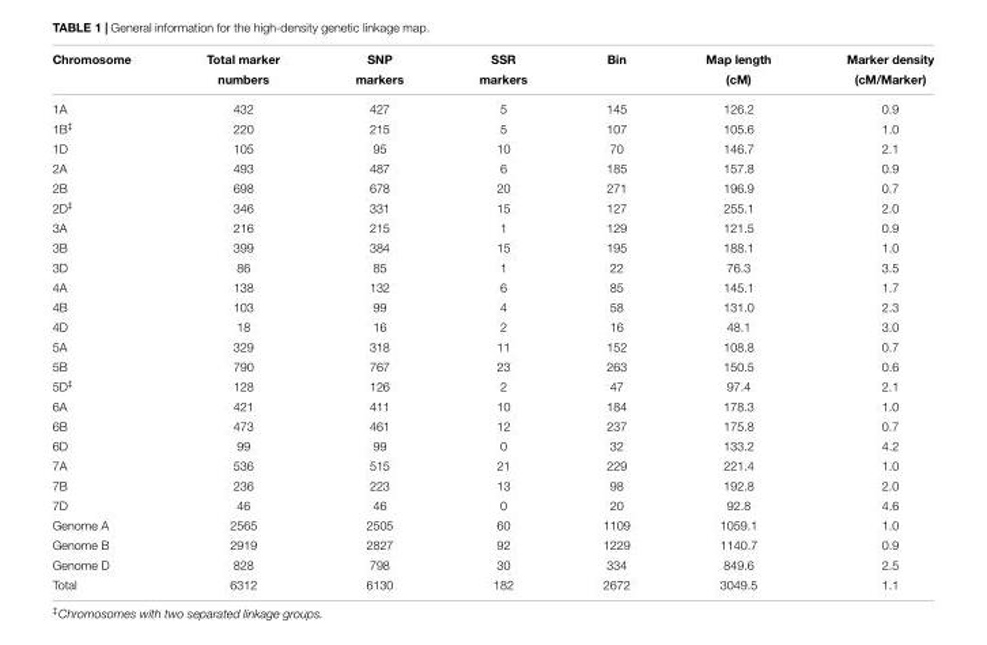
<table><thead><tr><td rowspan="2">Chromosome</td><td rowspan="2">Total marker numbers</td><td rowspan="2">SNP markers</td><td rowspan="2">SSR markers</td><td rowspan="2">Bin</td><td rowspan="2">Map length (cM)</td><td rowspan="2">Marker density (cM/Marker)</td></tr><tr></tr></thead><tbody><tr><td>1A</td><td>432</td><td>427</td><td>5</td><td>145</td><td>126.2</td><td>0.9</td></tr><tr><td>1B<sup>‡</sup></td><td>220</td><td>215</td><td>5</td><td>107</td><td>105.6</td><td>1.0</td></tr><tr><td>1D</td><td>105</td><td>95</td><td>10</td><td>70</td><td>146.7</td><td>2.1</td></tr><tr><td>2A</td><td>493</td><td>487</td><td>6</td><td>185</td><td>157.8</td><td>0.9</td></tr><tr><td>2B</td><td>698</td><td>678</td><td>20</td><td>271</td><td>196.9</td><td>0.7</td></tr><tr><td>2D<sup>‡</sup></td><td>346</td><td>331</td><td>15</td><td>127</td><td>255.1</td><td>2.0</td></tr><tr><td>3A</td><td>216</td><td>215</td><td>1</td><td>129</td><td>121.5</td><td>0.9</td></tr><tr><td>3B</td><td>399</td><td>384</td><td>15</td><td>195</td><td>188.1</td><td>1.0</td></tr><tr><td>3D</td><td>86</td><td>85</td><td>1</td><td>22</td><td>76.3</td><td>3.5</td></tr><tr><td>4A</td><td>138</td><td>132</td><td>6</td><td>85</td><td>145.1</td><td>1.7</td></tr><tr><td>4B</td><td>103</td><td>99</td><td>4</td><td>58</td><td>131.0</td><td>2.3</td></tr><tr><td>4D</td><td>18</td><td>16</td><td>2</td><td>16</td><td>48.1</td><td>3.0</td></tr><tr><td>5A</td><td>329</td><td>318</td><td>11</td><td>152</td><td>108.8</td><td>0.7</td></tr><tr><td>5B</td><td>790</td><td>767</td><td>23</td><td>263</td><td>150.5</td><td>0.6</td></tr><tr><td>5D<sup>‡</sup></td><td>128</td><td>126</td><td>2</td><td>47</td><td>97.4</td><td>2.1</td></tr><tr><td>6A</td><td>421</td><td>411</td><td>10</td><td>184</td><td>178.3</td><td>1.0</td></tr><tr><td>6B</td><td>473</td><td>461</td><td>12</td><td>237</td><td>175.8</td><td>0.7</td></tr><tr><td>6D</td><td>99</td><td>99</td><td>0</td><td>32</td><td>133.2</td><td>4.2</td></tr><tr><td>7A</td><td>536</td><td>515</td><td>21</td><td>229</td><td>221.4</td><td>1.0</td></tr><tr><td>7B</td><td>236</td><td>223</td><td>13</td><td>98</td><td>192.8</td><td>2.0</td></tr><tr><td>7D</td><td>46</td><td>46</td><td>0</td><td>20</td><td>92.8</td><td>4.6</td></tr><tr><td>Genome A</td><td>2565</td><td>2505</td><td>60</td><td>1109</td><td>1059.1</td><td>1.0</td></tr><tr><td>Genome B</td><td>2919</td><td>2827</td><td>92</td><td>1229</td><td>1140.7</td><td>0.9</td></tr><tr><td>Genome D</td><td>828</td><td>798</td><td>30</td><td>334</td><td>849.6</td><td>2.5</td></tr><tr><td>Total</td><td>6312</td><td>6130</td><td>182</td><td>2672</td><td>3049.5</td><td>1.1</td></tr></tbody></table>